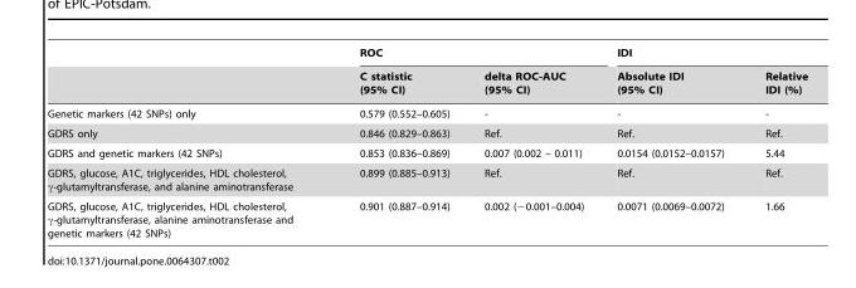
<table><thead><tr><td rowspan="2"></td><td colspan="2">ROC</td><td colspan="2">IDI</td></tr><tr><td>C statistic (95% CI)</td><td>delta ROC-AUC (95% CI)</td><td>Absolute IDI (95% CI)</td><td>Relative IDI (%)</td></tr></thead><tbody><tr><td>Genetic markers (42 SNPs) only</td><td>0.579 (0.552–0.605)</td><td>-</td><td>-</td><td>-</td></tr><tr><td>GDRS only</td><td>0.846 (0.829–0.863)</td><td>Ref.</td><td>Ref.</td><td>Ref.</td></tr><tr><td>GDRS and genetic markers (42 SNPs)</td><td>0.853 (0.836–0.869)</td><td>0.007 (0.002 – 0.011)</td><td>0.0154 (0.0152–0.0157)</td><td>5.44</td></tr><tr><td>GDRS, glucose, A1C, triglycerides, HDL cholesterol, γ-glutamyltransferase, and alanine aminotransferase</td><td>0.899 (0.885–0.913)</td><td>Ref.</td><td>Ref.</td><td>Ref.</td></tr><tr><td>GDRS, glucose, A1C, triglycerides, HDL cholesterol, γ-glutamyltransferase, alanine aminotransferase and genetic markers (42 SNPs)</td><td>0.901 (0.887–0.914)</td><td>0.002 (−0.001–0.004)</td><td>0.0071 (0.0069–0.0072)</td><td>1.66</td></tr></tbody></table>